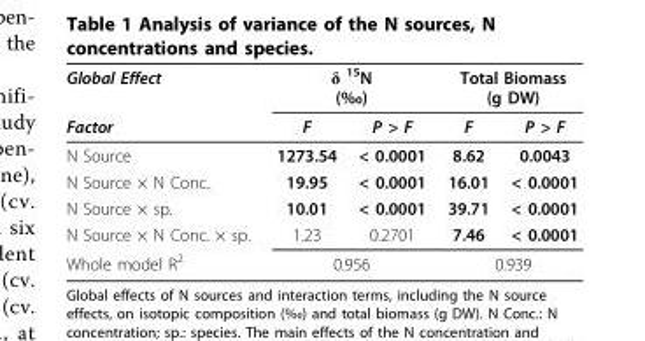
<table><thead><tr><td rowspan="2">Global Effect Factor</td><td colspan="2">δ <sup>15</sup>N (‰)</td><td colspan="2">Total Biomass (g DW)</td></tr><tr><td>F</td><td>P &gt; F</td><td>F</td><td>P &gt; F</td></tr></thead><tbody><tr><td>N Source</td><td>1273.54</td><td>&lt; 0.0001</td><td>8.62</td><td>0.0043</td></tr><tr><td>N Source × N Conc.</td><td>19.95</td><td>&lt; 0.0001</td><td>16.01</td><td>&lt; 0.0001</td></tr><tr><td>N Source × sp.</td><td>10.01</td><td>&lt; 0.0001</td><td>39.71</td><td>&lt; 0.0001</td></tr><tr><td>N Source × N Conc. × sp.</td><td>1.23</td><td>0.2701</td><td>7.46</td><td>&lt; 0.0001</td></tr><tr><td>Whole model R<sup>2</sup></td><td colspan="2">0.956</td><td colspan="2">0.939</td></tr></tbody></table>